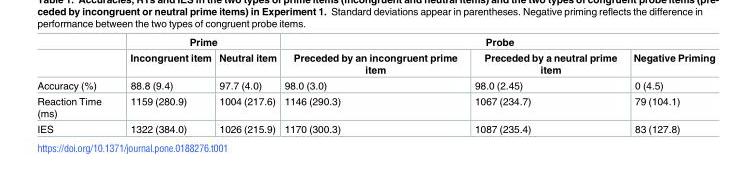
<table><thead><tr><td rowspan="2"></td><td colspan="2">Prime</td><td colspan="3">Probe</td></tr><tr><td>Incongruent item</td><td>Neutral item</td><td>Preceded by an incongruent prime item</td><td>Preceded by a neutral prime item</td><td>Negative Priming</td></tr></thead><tbody><tr><td>Accuracy (%)</td><td>88.8 (9.4)</td><td>97.7 (4.0)</td><td>98.0 (3.0)</td><td>98.0 (2.45)</td><td>0 (4.5)</td></tr><tr><td>Reaction Time (ms)</td><td>1159 (280.9)</td><td>1004 (217.6)</td><td>1146 (290.3)</td><td>1067 (234.7)</td><td>79 (104.1)</td></tr><tr><td>IES</td><td>1322 (384.0)</td><td>1026 (215.9)</td><td>1170 (300.3)</td><td>1087 (235.4)</td><td>83 (127.8)</td></tr></tbody></table>